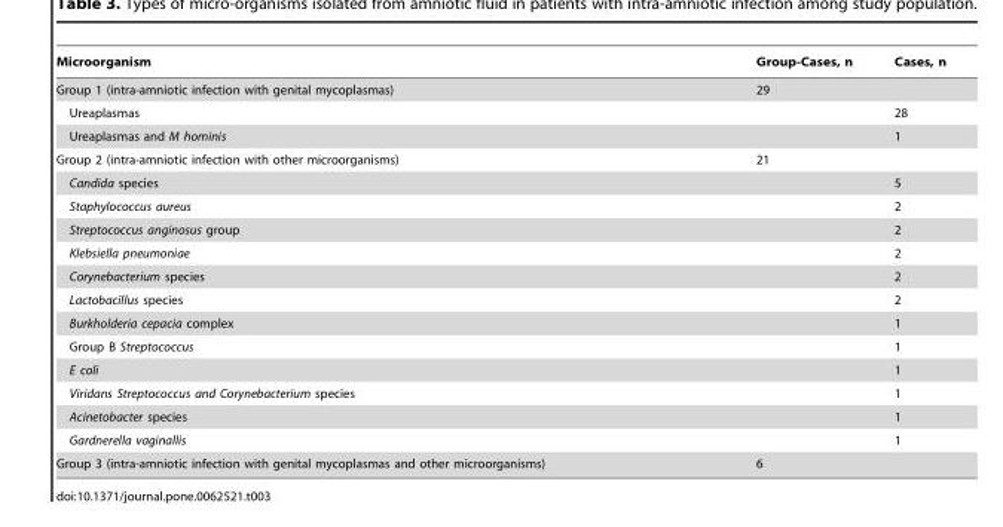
<table><thead><tr><td>Microorganism</td><td>Group-Cases, n</td><td>Cases, n</td></tr></thead><tbody><tr><td>Group 1 (intra-amniotic infection with genital mycoplasmas)</td><td>29</td><td></td></tr><tr><td>Ureaplasmas</td><td></td><td>28</td></tr><tr><td>Ureaplasmas and M hominis</td><td></td><td>1</td></tr><tr><td>Group 2 (intra-amniotic infection with other microorganisms)</td><td>21</td><td></td></tr><tr><td>Candida species</td><td></td><td>5</td></tr><tr><td>Staphylococcus aureus</td><td></td><td>2</td></tr><tr><td>Streptococcus anginosus group</td><td></td><td>2</td></tr><tr><td>Klebsiella pneumoniae</td><td></td><td>2</td></tr><tr><td>Corynebacterium species</td><td></td><td>2</td></tr><tr><td>Lactobacillus species</td><td></td><td>2</td></tr><tr><td>Burkholderia cepacia complex</td><td></td><td>1</td></tr><tr><td>Group B Streptococcus</td><td></td><td>1</td></tr><tr><td>E coli</td><td></td><td>1</td></tr><tr><td>Viridans Streptococcus and Corynebacterium species</td><td></td><td>1</td></tr><tr><td>Acinetobacter species</td><td></td><td>1</td></tr><tr><td>Gardnerella vaginallis</td><td></td><td>1</td></tr><tr><td>Group 3 (intra-amniotic infection with genital mycoplasmas and other microorganisms)</td><td>6</td><td></td></tr></tbody></table>